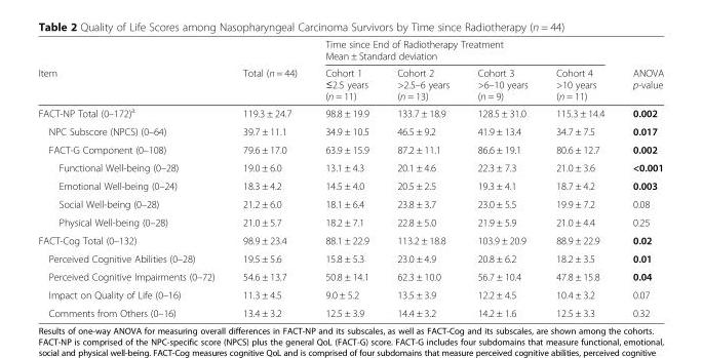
<table><thead><tr><td rowspan="2">Item</td><td rowspan="2">Total (n = 44)</td><td colspan="4">Time since End of Radiotherapy Treatment Mean ± Standard deviation</td><td rowspan="2">ANOVA p-value</td></tr><tr><td>Cohort 1 ≤2.5 years (n = 11)</td><td>Cohort 2 &gt;2.5–6 years (n = 13)</td><td>Cohort 3 &gt;6–10 years (n = 9)</td><td>Cohort 4 &gt;10 years (n = 11)</td></tr></thead><tbody><tr><td>FACT-NP Total (0–172)<sup>a</sup></td><td>119.3 ± 24.7</td><td>98.8 ± 19.9</td><td>133.7 ± 18.9</td><td>128.5 ± 31.0</td><td>115.3 ± 14.4</td><td>0.002</td></tr><tr><td>NPC Subscore (NPCS) (0–64)</td><td>39.7 ± 11.1</td><td>34.9 ± 10.5</td><td>46.5 ± 9.2</td><td>41.9 ± 13.4</td><td>34.7 ± 7.5</td><td>0.017</td></tr><tr><td>FACT-G Component (0–108)</td><td>79.6 ± 17.0</td><td>63.9 ± 15.9</td><td>87.2 ± 11.1</td><td>86.6 ± 19.1</td><td>80.6 ± 12.7</td><td>0.002</td></tr><tr><td>Functional Well-being (0–28)</td><td>19.0 ± 6.0</td><td>13.1 ± 4.3</td><td>20.1 ± 4.6</td><td>22.3 ± 7.3</td><td>21.0 ± 3.6</td><td>&lt;0.001</td></tr><tr><td>Emotional Well-being (0–24)</td><td>18.3 ± 4.2</td><td>14.5 ± 4.0</td><td>20.5 ± 2.5</td><td>19.3 ± 4.1</td><td>18.7 ± 4.2</td><td>0.003</td></tr><tr><td>Social Well-being (0–28)</td><td>21.2 ± 6.0</td><td>18.1 ± 6.4</td><td>23.8 ± 3.7</td><td>23.0 ± 5.5</td><td>19.9 ± 7.2</td><td>0.08</td></tr><tr><td>Physical Well-being (0–28)</td><td>21.0 ± 5.7</td><td>18.2 ± 7.1</td><td>22.8 ± 5.0</td><td>21.9 ± 5.9</td><td>21.0 ± 4.4</td><td>0.25</td></tr><tr><td>FACT-Cog Total (0–132)</td><td>98.9 ± 23.4</td><td>88.1 ± 22.9</td><td>113.2 ± 18.8</td><td>103.9 ± 20.9</td><td>88.9 ± 22.9</td><td>0.02</td></tr><tr><td>Perceived Cognitive Abilities (0–28)</td><td>19.5 ± 5.6</td><td>15.8 ± 5.3</td><td>23.0 ± 4.9</td><td>20.8 ± 6.2</td><td>18.2 ± 3.5</td><td>0.01</td></tr><tr><td>Perceived Cognitive Impairments (0–72)</td><td>54.6 ± 13.7</td><td>50.8 ± 14.1</td><td>62.3 ± 10.0</td><td>56.7 ± 10.4</td><td>47.8 ± 15.8</td><td>0.04</td></tr><tr><td>Impact on Quality of Life (0–16)</td><td>11.3 ± 4.5</td><td>9.0 ± 5.2</td><td>13.5 ± 3.9</td><td>12.2 ± 4.5</td><td>10.4 ± 3.2</td><td>0.07</td></tr><tr><td>Comments from Others (0–16)</td><td>13.4 ± 3.2</td><td>12.5 ± 3.9</td><td>14.4 ± 3.2</td><td>14.2 ± 1.6</td><td>12.5 ± 3.3</td><td>0.32</td></tr></tbody></table>